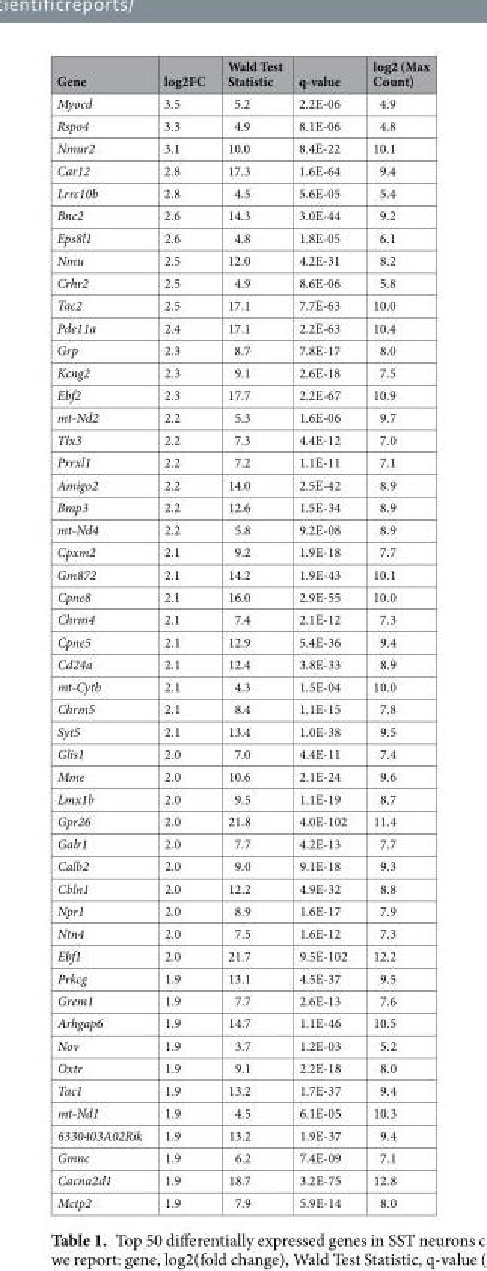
<table><thead><tr><td>Gene</td><td>log2FC</td><td>Wald Test Statistic</td><td>q-value</td><td>log2 (Max Count)</td></tr></thead><tbody><tr><td>Myocd</td><td>3.5</td><td>5.2</td><td>2.2E-06</td><td>4.9</td></tr><tr><td>Rspo4</td><td>3.3</td><td>4.9</td><td>8.1E-06</td><td>4.8</td></tr><tr><td>Nmur2</td><td>3.1</td><td>10.0</td><td>8.4E-22</td><td>10.1</td></tr><tr><td>Car12</td><td>2.8</td><td>17.3</td><td>1.6E-64</td><td>9.4</td></tr><tr><td>Lrrc10b</td><td>2.8</td><td>4.5</td><td>5.6E-05</td><td>5.4</td></tr><tr><td>Bnc2</td><td>2.6</td><td>14.3</td><td>3.0E-44</td><td>9.2</td></tr><tr><td>Eps8l1</td><td>2.6</td><td>4.8</td><td>1.8E-05</td><td>6.1</td></tr><tr><td>Nmu</td><td>2.5</td><td>12.0</td><td>4.2E-31</td><td>8.2</td></tr><tr><td>Crhr2</td><td>2.5</td><td>4.9</td><td>8.6E-06</td><td>5.8</td></tr><tr><td>Tac2</td><td>2.5</td><td>17.1</td><td>7.7E-63</td><td>10.0</td></tr><tr><td>Pde11a</td><td>2.4</td><td>17.1</td><td>2.2E-63</td><td>10.4</td></tr><tr><td>Grp</td><td>2.3</td><td>8.7</td><td>7.8E-17</td><td>8.0</td></tr><tr><td>Kcng2</td><td>2.3</td><td>9.1</td><td>2.6E-18</td><td>7.5</td></tr><tr><td>Ebf2</td><td>2.3</td><td>17.7</td><td>2.2E-67</td><td>10.9</td></tr><tr><td>mt-Nd2</td><td>2.2</td><td>5.3</td><td>1.6E-06</td><td>9.7</td></tr><tr><td>Tlx3</td><td>2.2</td><td>7.3</td><td>4.4E-12</td><td>7.0</td></tr><tr><td>Prrxl1</td><td>2.2</td><td>7.2</td><td>1.1E-11</td><td>7.1</td></tr><tr><td>Amigo2</td><td>2.2</td><td>14.0</td><td>2.5E-42</td><td>8.9</td></tr><tr><td>Bmp3</td><td>2.2</td><td>12.6</td><td>1.5E-34</td><td>8.9</td></tr><tr><td>mt-Nd4</td><td>2.2</td><td>5.8</td><td>9.2E-08</td><td>8.9</td></tr><tr><td>Cpxm2</td><td>2.1</td><td>9.2</td><td>1.9E-18</td><td>7.7</td></tr><tr><td>Gm872</td><td>2.1</td><td>14.2</td><td>1.9E-43</td><td>10.1</td></tr><tr><td>Cpne8</td><td>2.1</td><td>16.0</td><td>2.9E-55</td><td>10.0</td></tr><tr><td>Chrm4</td><td>2.1</td><td>7.4</td><td>2.1E-12</td><td>7.3</td></tr><tr><td>Cpne5</td><td>2.1</td><td>12.9</td><td>5.4E-36</td><td>9.4</td></tr><tr><td>Cd24a</td><td>2.1</td><td>12.4</td><td>3.8E-33</td><td>8.9</td></tr><tr><td>mt-Cytb</td><td>2.1</td><td>4.3</td><td>1.5E-04</td><td>10.0</td></tr><tr><td>Chrm5</td><td>2.1</td><td>8.4</td><td>1.1E-15</td><td>7.8</td></tr><tr><td>Syt5</td><td>2.1</td><td>13.4</td><td>1.0E-38</td><td>9.5</td></tr><tr><td>Glis1</td><td>2.0</td><td>7.0</td><td>4.4E-11</td><td>7.4</td></tr><tr><td>Mme</td><td>2.0</td><td>10.6</td><td>2.1E-24</td><td>9.6</td></tr><tr><td>Lmx1b</td><td>2.0</td><td>9.5</td><td>1.1E-19</td><td>8.7</td></tr><tr><td>Gpr26</td><td>2.0</td><td>21.8</td><td>4.0E-102</td><td>11.4</td></tr><tr><td>Galr1</td><td>2.0</td><td>7.7</td><td>4.2E-13</td><td>7.7</td></tr><tr><td>Calb2</td><td>2.0</td><td>9.0</td><td>9.1E-18</td><td>9.3</td></tr><tr><td>Cbln1</td><td>2.0</td><td>12.2</td><td>4.9E-32</td><td>8.8</td></tr><tr><td>Npr1</td><td>2.0</td><td>8.9</td><td>1.6E-17</td><td>7.9</td></tr><tr><td>Ntn4</td><td>2.0</td><td>7.5</td><td>1.6E-12</td><td>7.3</td></tr><tr><td>Ebf1</td><td>2.0</td><td>21.7</td><td>9.5E-102</td><td>12.2</td></tr><tr><td>Prkcg</td><td>1.9</td><td>13.1</td><td>4.5E-37</td><td>9.5</td></tr><tr><td>Grem1</td><td>1.9</td><td>7.7</td><td>2.6E-13</td><td>7.6</td></tr><tr><td>Arhgap6</td><td>1.9</td><td>14.7</td><td>1.1E-46</td><td>10.5</td></tr><tr><td>Nov</td><td>1.9</td><td>3.7</td><td>1.2E-03</td><td>5.2</td></tr><tr><td>Oxtr</td><td>1.9</td><td>9.1</td><td>2.2E-18</td><td>8.0</td></tr><tr><td>Tac1</td><td>1.9</td><td>13.2</td><td>1.7E-37</td><td>9.4</td></tr><tr><td>mt-Nd1</td><td>1.9</td><td>4.5</td><td>6.1E-05</td><td>10.3</td></tr><tr><td>6330403A02Rik</td><td>1.9</td><td>13.2</td><td>1.9E-37</td><td>9.4</td></tr><tr><td>Gmnc</td><td>1.9</td><td>6.2</td><td>7.4E-09</td><td>7.1</td></tr><tr><td>Cacna2d1</td><td>1.9</td><td>18.7</td><td>3.2E-75</td><td>12.8</td></tr><tr><td>Mctp2</td><td>1.9</td><td>7.9</td><td>5.9E-14</td><td>8.0</td></tr></tbody></table>